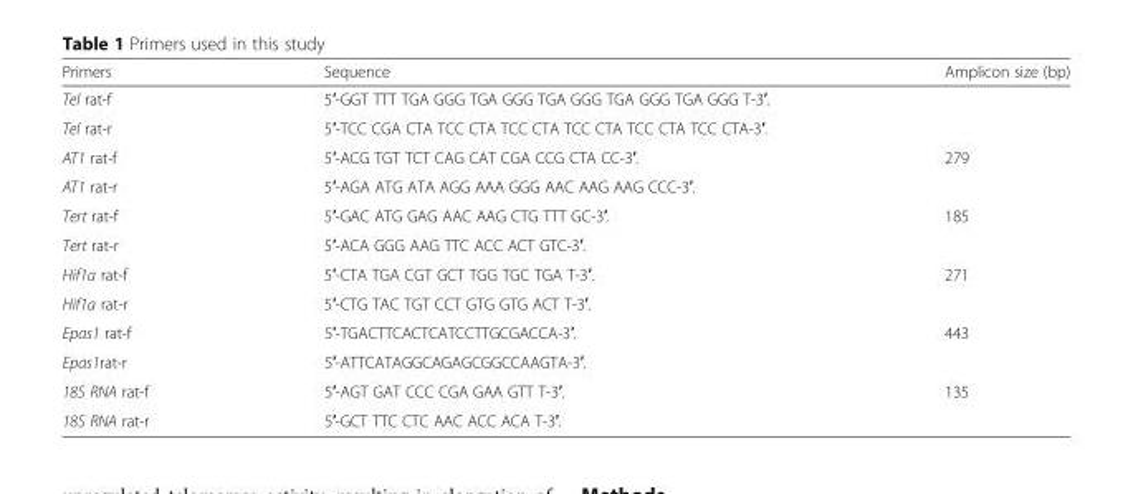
<table><thead><tr><td>Primers</td><td>Sequence</td><td>Amplicon size (bp)</td></tr></thead><tbody><tr><td>Tel rat-f</td><td>5′-GGT TTT TGA GGG TGA GGG TGA GGG TGA GGG TGA GGG T-3′.</td><td></td></tr><tr><td>Tel rat-r</td><td>5′-TCC CGA CTA TCC CTA TCC CTA TCC CTA TCC CTA TCC CTA-3′.</td><td></td></tr><tr><td>AT1 rat-f</td><td>5′-ACG TGT TCT CAG CAT CGA CCG CTA CC-3′.</td><td>279</td></tr><tr><td>AT1 rat-r</td><td>5′-AGA ATG ATA AGG AAA GGG AAC AAG AAG CCC-3′.</td><td></td></tr><tr><td>Tert rat-f</td><td>5′-GAC ATG GAG AAC AAG CTG TTT GC-3′.</td><td>185</td></tr><tr><td>Tert rat-r</td><td>5′-ACA GGG AAG TTC ACC ACT GTC-3′.</td><td></td></tr><tr><td>Hif1a rat-f</td><td>5′-CTA TGA CGT GCT TGG TGC TGA T-3′.</td><td>271</td></tr><tr><td>Hif1a rat-r</td><td>5′-CTG TAC TGT CCT GTG GTG ACT T-3′.</td><td></td></tr><tr><td>Epas1 rat-f</td><td>5′-TGACTTCACTCATCCTTGCGACCA-3′.</td><td>443</td></tr><tr><td>Epas1rat-r</td><td>5′-ATTCATAGGCAGAGCGGCCAAGTA-3′.</td><td></td></tr><tr><td>18S RNA rat-f</td><td>5′-AGT GAT CCC CGA GAA GTT T-3′.</td><td>135</td></tr><tr><td>18S RNA rat-r</td><td>5′-GCT TTC CTC AAC ACC ACA T-3′.</td><td></td></tr></tbody></table>